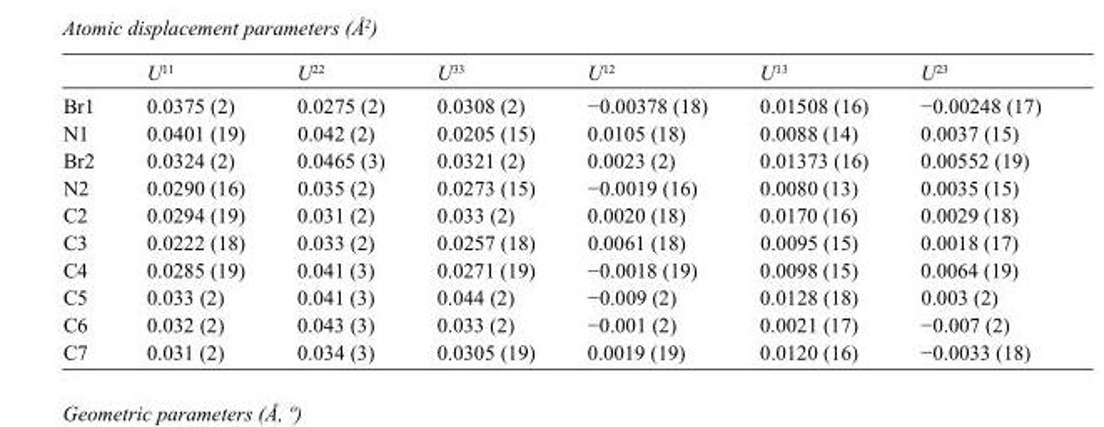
<table><thead><tr><td></td><td>U<sup>11</sup></td><td>U<sup>22</sup></td><td>U<sup>33</sup></td><td>U<sup>12</sup></td><td>U<sup>13</sup></td><td>U<sup>23</sup></td></tr></thead><tbody><tr><td>Br1</td><td>0.0375 (2)</td><td>0.0275 (2)</td><td>0.0308 (2)</td><td>−0.00378 (18)</td><td>0.01508 (16)</td><td>−0.00248 (17)</td></tr><tr><td>N1</td><td>0.0401 (19)</td><td>0.042 (2)</td><td>0.0205 (15)</td><td>0.0105 (18)</td><td>0.0088 (14)</td><td>0.0037 (15)</td></tr><tr><td>Br2</td><td>0.0324 (2)</td><td>0.0465 (3)</td><td>0.0321 (2)</td><td>0.0023 (2)</td><td>0.01373 (16)</td><td>0.00552 (19)</td></tr><tr><td>N2</td><td>0.0290 (16)</td><td>0.035 (2)</td><td>0.0273 (15)</td><td>−0.0019 (16)</td><td>0.0080 (13)</td><td>0.0035 (15)</td></tr><tr><td>C2</td><td>0.0294 (19)</td><td>0.031 (2)</td><td>0.033 (2)</td><td>0.0020 (18)</td><td>0.0170 (16)</td><td>0.0029 (18)</td></tr><tr><td>C3</td><td>0.0222 (18)</td><td>0.033 (2)</td><td>0.0257 (18)</td><td>0.0061 (18)</td><td>0.0095 (15)</td><td>0.0018 (17)</td></tr><tr><td>C4</td><td>0.0285 (19)</td><td>0.041 (3)</td><td>0.0271 (19)</td><td>−0.0018 (19)</td><td>0.0098 (15)</td><td>0.0064 (19)</td></tr><tr><td>C5</td><td>0.033 (2)</td><td>0.041 (3)</td><td>0.044 (2)</td><td>−0.009 (2)</td><td>0.0128 (18)</td><td>0.003 (2)</td></tr><tr><td>C6</td><td>0.032 (2)</td><td>0.043 (3)</td><td>0.033 (2)</td><td>−0.001 (2)</td><td>0.0021 (17)</td><td>−0.007 (2)</td></tr><tr><td>C7</td><td>0.031 (2)</td><td>0.034 (3)</td><td>0.0305 (19)</td><td>0.0019 (19)</td><td>0.0120 (16)</td><td>−0.0033 (18)</td></tr></tbody></table>